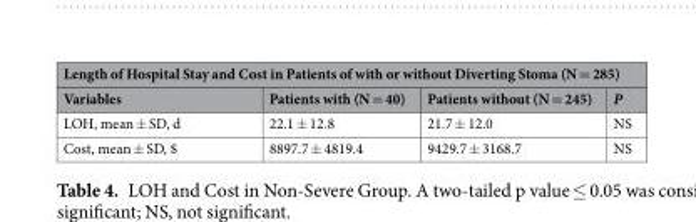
<table><thead><tr><td colspan="4">Length of Hospital Stay and Cost in Patients of with or without Diverting Stoma (N = 285)</td></tr><tr><td>Variables</td><td>Patients with (N = 40)</td><td>Patients without (N = 245)</td><td>P</td></tr></thead><tbody><tr><td>LOH, mean ± SD, d</td><td>22.1 ± 12.8</td><td>21.7 ± 12.0</td><td>NS</td></tr><tr><td>Cost, mean ± SD, $</td><td>8897.7 ± 4819.4</td><td>9429.7 ± 3168.7</td><td>NS</td></tr></tbody></table>